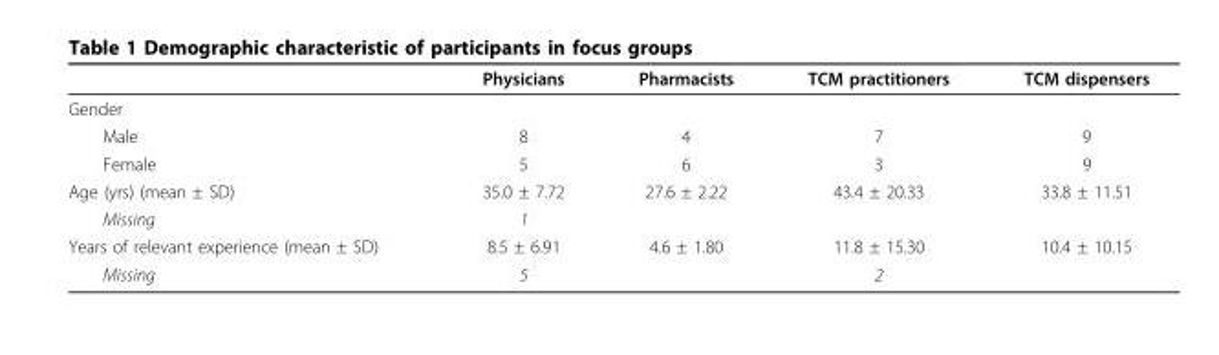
<table><thead><tr><td></td><td>Physicians</td><td>Pharmacists</td><td>TCM practitioners</td><td>TCM dispensers</td></tr></thead><tbody><tr><td colspan="5">Gender</td></tr><tr><td>Male</td><td>8</td><td>4</td><td>7</td><td>9</td></tr><tr><td>Female</td><td>5</td><td>6</td><td>3</td><td>9</td></tr><tr><td>Age (yrs) (mean ± SD)</td><td>35.0 ± 7.72</td><td>27.6 ± 2.22</td><td>43.4 ± 20.33</td><td>33.8 ± 11.51</td></tr><tr><td>Missing</td><td>1</td><td></td><td></td><td></td></tr><tr><td>Years of relevant experience (mean ± SD)</td><td>8.5 ± 6.91</td><td>4.6 ± 1.80</td><td>11.8 ± 15.30</td><td>10.4 ± 10.15</td></tr><tr><td>Missing</td><td>5</td><td></td><td>2</td><td></td></tr></tbody></table>